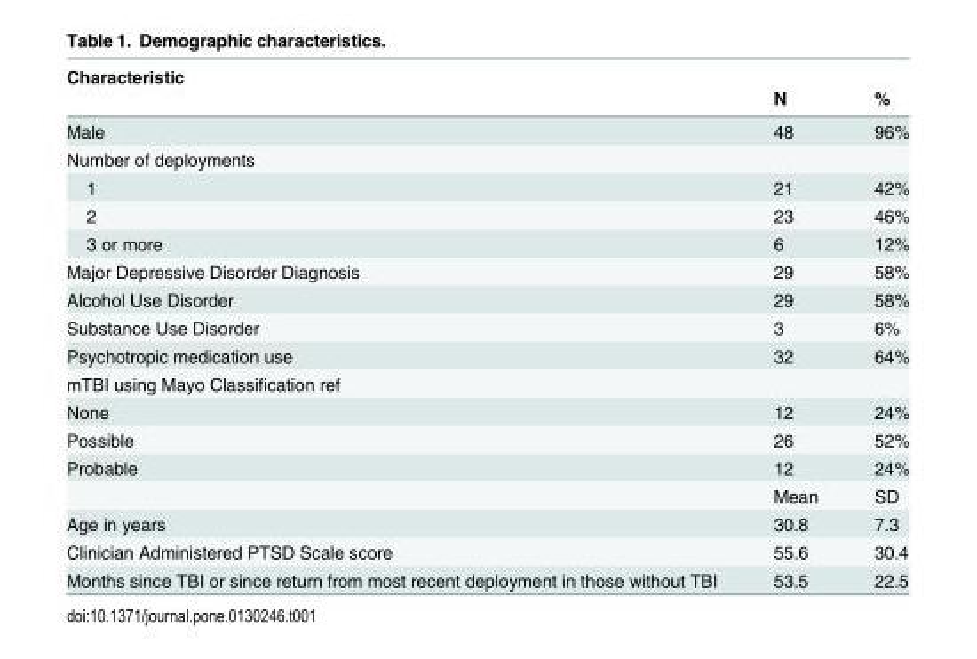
<table><thead><tr><td rowspan="2">Characteristic</td><td rowspan="2">N</td><td rowspan="2">%</td></tr><tr></tr></thead><tbody><tr><td>Male</td><td>48</td><td>96%</td></tr><tr><td colspan="3">Number of deployments</td></tr><tr><td>1</td><td>21</td><td>42%</td></tr><tr><td>2</td><td>23</td><td>46%</td></tr><tr><td>3 or more</td><td>6</td><td>12%</td></tr><tr><td>Major Depressive Disorder Diagnosis</td><td>29</td><td>58%</td></tr><tr><td>Alcohol Use Disorder</td><td>29</td><td>58%</td></tr><tr><td>Substance Use Disorder</td><td>3</td><td>6%</td></tr><tr><td>Psychotropic medication use</td><td>32</td><td>64%</td></tr><tr><td colspan="3">mTBI using Mayo Classification ref</td></tr><tr><td>None</td><td>12</td><td>24%</td></tr><tr><td>Possible</td><td>26</td><td>52%</td></tr><tr><td rowspan="2">Probable</td><td>12</td><td>24%</td></tr><tr><td>Mean</td><td>SD</td></tr><tr><td>Age in years</td><td>30.8</td><td>7.3</td></tr><tr><td>Clinician Administered PTSD Scale score</td><td>55.6</td><td>30.4</td></tr><tr><td>Months since TBI or since return from most recent deployment in those without TBI</td><td>53.5</td><td>22.5</td></tr></tbody></table>